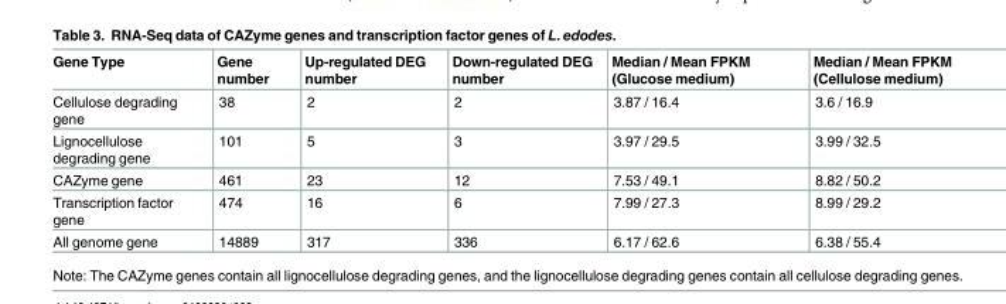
<table><thead><tr><td>Gene Type</td><td>Gene number</td><td>Up-regulated DEG number</td><td>Down-regulated DEG number</td><td>Median / Mean FPKM (Glucose medium)</td><td>Median / Mean FPKM (Cellulose medium)</td></tr></thead><tbody><tr><td>Cellulose degrading gene</td><td>38</td><td>2</td><td>2</td><td>3.87 / 16.4</td><td>3.6 / 16.9</td></tr><tr><td>Lignocellulose degrading gene</td><td>101</td><td>5</td><td>3</td><td>3.97 / 29.5</td><td>3.99 / 32.5</td></tr><tr><td>CAZyme gene</td><td>461</td><td>23</td><td>12</td><td>7.53 / 49.1</td><td>8.82 / 50.2</td></tr><tr><td>Transcription factor gene</td><td>474</td><td>16</td><td>6</td><td>7.99 / 27.3</td><td>8.99 / 29.2</td></tr><tr><td>All genome gene</td><td>14889</td><td>317</td><td>336</td><td>6.17 / 62.6</td><td>6.38 / 55.4</td></tr></tbody></table>